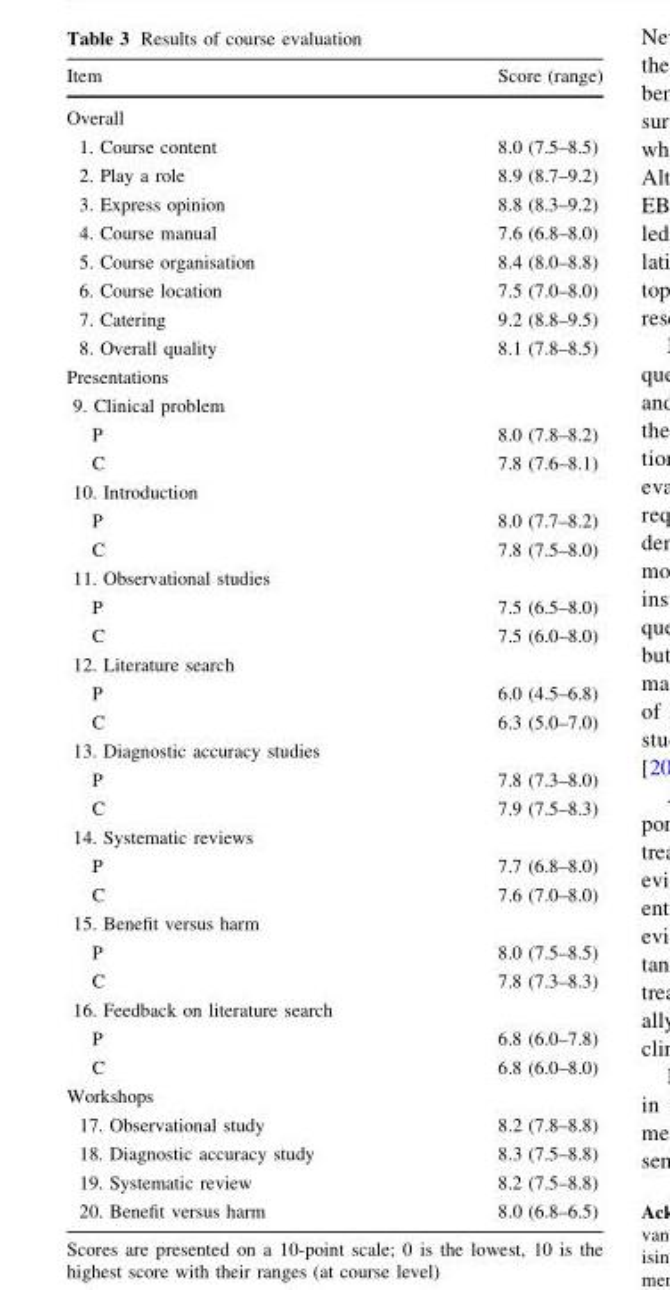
<table><thead><tr><td>Item</td><td>Score (range)</td></tr></thead><tbody><tr><td colspan="2">Overall</td></tr><tr><td>1. Course content</td><td>8.0 (7.5–8.5)</td></tr><tr><td>2. Play a role</td><td>8.9 (8.7–9.2)</td></tr><tr><td>3. Express opinion</td><td>8.8 (8.3–9.2)</td></tr><tr><td>4. Course manual</td><td>7.6 (6.8–8.0)</td></tr><tr><td>5. Course organisation</td><td>8.4 (8.0–8.8)</td></tr><tr><td>6. Course location</td><td>7.5 (7.0–8.0)</td></tr><tr><td>7. Catering</td><td>9.2 (8.8–9.5)</td></tr><tr><td>8. Overall quality</td><td>8.1 (7.8–8.5)</td></tr><tr><td colspan="2">Presentations</td></tr><tr><td colspan="2">9. Clinical problem</td></tr><tr><td>P</td><td>8.0 (7.8–8.2)</td></tr><tr><td>C</td><td>7.8 (7.6–8.1)</td></tr><tr><td colspan="2">10. Introduction</td></tr><tr><td>P</td><td>8.0 (7.7–8.2)</td></tr><tr><td>C</td><td>7.8 (7.5–8.0)</td></tr><tr><td colspan="2">11. Observational studies</td></tr><tr><td>P</td><td>7.5 (6.5–8.0)</td></tr><tr><td>C</td><td>7.5 (6.0–8.0)</td></tr><tr><td colspan="2">12. Literature search</td></tr><tr><td>P</td><td>6.0 (4.5–6.8)</td></tr><tr><td>C</td><td>6.3 (5.0–7.0)</td></tr><tr><td colspan="2">13. Diagnostic accuracy studies</td></tr><tr><td>P</td><td>7.8 (7.3–8.0)</td></tr><tr><td>C</td><td>7.9 (7.5–8.3)</td></tr><tr><td colspan="2">14. Systematic reviews</td></tr><tr><td>P</td><td>7.7 (6.8–8.0)</td></tr><tr><td>C</td><td>7.6 (7.0–8.0)</td></tr><tr><td colspan="2">15. Benefit versus harm</td></tr><tr><td>P</td><td>8.0 (7.5–8.5)</td></tr><tr><td>C</td><td>7.8 (7.3–8.3)</td></tr><tr><td colspan="2">16. Feedback on literature search</td></tr><tr><td>P</td><td>6.8 (6.0–7.8)</td></tr><tr><td>C</td><td>6.8 (6.0–8.0)</td></tr><tr><td colspan="2">Workshops</td></tr><tr><td>17. Observational study</td><td>8.2 (7.8–8.8)</td></tr><tr><td>18. Diagnostic accuracy study</td><td>8.3 (7.5–8.8)</td></tr><tr><td>19. Systematic review</td><td>8.2 (7.5–8.8)</td></tr><tr><td>20. Benefit versus harm</td><td>8.0 (6.8–6.5)</td></tr></tbody></table>